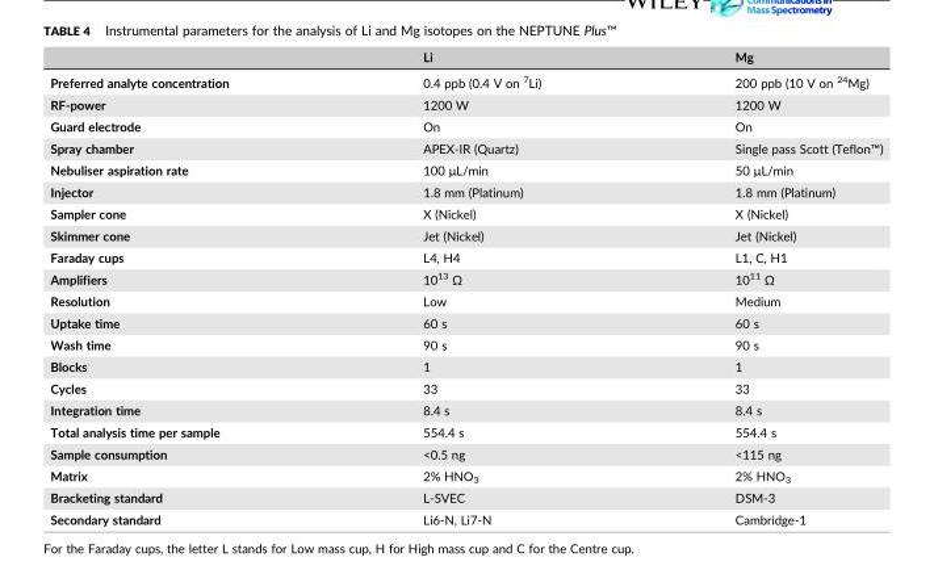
<table><thead><tr><td></td><td>Li</td><td>Mg</td></tr></thead><tbody><tr><td>Preferred analyte concentration</td><td>0.4 ppb (0.4 V on <sup>7</sup>Li)</td><td>200 ppb (10 V on <sup>24</sup>Mg)</td></tr><tr><td>RF‐power</td><td>1200 W</td><td>1200 W</td></tr><tr><td>Guard electrode</td><td>On</td><td>On</td></tr><tr><td>Spray chamber</td><td>APEX‐IR (Quartz)</td><td>Single pass Scott (Teflon™)</td></tr><tr><td>Nebuliser aspiration rate</td><td>100 μL/min</td><td>50 μL/min</td></tr><tr><td>Injector</td><td>1.8 mm (Platinum)</td><td>1.8 mm (Platinum)</td></tr><tr><td>Sampler cone</td><td>X (Nickel)</td><td>X (Nickel)</td></tr><tr><td>Skimmer cone</td><td>Jet (Nickel)</td><td>Jet (Nickel)</td></tr><tr><td>Faraday cups</td><td>L4, H4</td><td>L1, C, H1</td></tr><tr><td>Amplifiers</td><td>10<sup>13</sup> Ω</td><td>10<sup>11</sup> Ω</td></tr><tr><td>Resolution</td><td>Low</td><td>Medium</td></tr><tr><td>Uptake time</td><td>60 s</td><td>60 s</td></tr><tr><td>Wash time</td><td>90 s</td><td>90 s</td></tr><tr><td>Blocks</td><td>1</td><td>1</td></tr><tr><td>Cycles</td><td>33</td><td>33</td></tr><tr><td>Integration time</td><td>8.4 s</td><td>8.4 s</td></tr><tr><td>Total analysis time per sample</td><td>554.4 s</td><td>554.4 s</td></tr><tr><td>Sample consumption</td><td>&lt;0.5 ng</td><td>&lt;115 ng</td></tr><tr><td>Matrix</td><td>2% HNO<sub>3</sub></td><td>2% HNO<sub>3</sub></td></tr><tr><td>Bracketing standard</td><td>L‐SVEC</td><td>DSM‐3</td></tr><tr><td>Secondary standard</td><td>Li6‐N, Li7‐N</td><td>Cambridge‐1</td></tr></tbody></table>